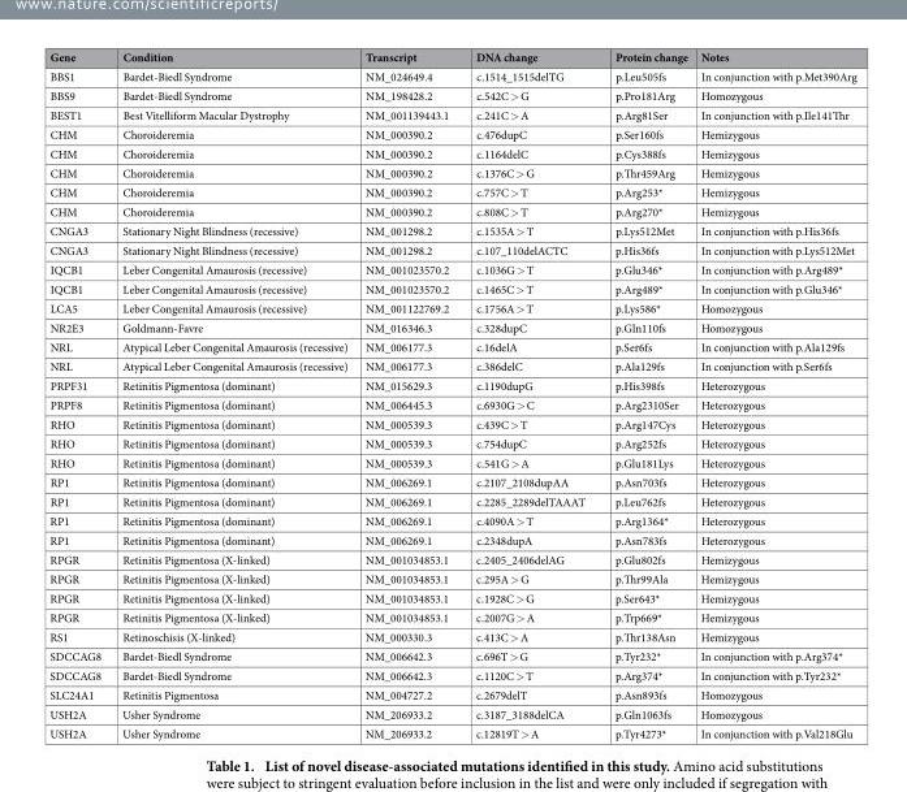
<table><thead><tr><td>Gene</td><td>Condition</td><td>Transcript</td><td>DNA change</td><td>Protein change</td><td>Notes</td></tr></thead><tbody><tr><td>BBS1</td><td>Bardet-Biedl Syndrome</td><td>NM_024649.4</td><td>c.1514_1515delTG</td><td>p.Leu505fs</td><td>In conjunction with p.Met390Arg</td></tr><tr><td>BBS9</td><td>Bardet-Biedl Syndrome</td><td>NM_198428.2</td><td>c.542C &gt; G</td><td>p.Pro181Arg</td><td>Homozygous</td></tr><tr><td>BEST1</td><td>Best Vitelliform Macular Dystrophy</td><td>NM_001139443.1</td><td>c.241C &gt; A</td><td>p.Arg81Ser</td><td>In conjunction with p.Ile141Thr</td></tr><tr><td>CHM</td><td>Choroideremia</td><td>NM_000390.2</td><td>c.476dupC</td><td>p.Ser160fs</td><td>Hemizygous</td></tr><tr><td>CHM</td><td>Choroideremia</td><td>NM_000390.2</td><td>c.1164delC</td><td>p.Cys388fs</td><td>Hemizygous</td></tr><tr><td>CHM</td><td>Choroideremia</td><td>NM_000390.2</td><td>c.1376C &gt; G</td><td>p.Thr459Arg</td><td>Hemizygous</td></tr><tr><td>CHM</td><td>Choroideremia</td><td>NM_000390.2</td><td>c.757C &gt; T</td><td>p.Arg253*</td><td>Hemizygous</td></tr><tr><td>CHM</td><td>Choroideremia</td><td>NM_000390.2</td><td>c.808C &gt; T</td><td>p.Arg270*</td><td>Hemizygous</td></tr><tr><td>CNGA3</td><td>Stationary Night Blindness (recessive)</td><td>NM_001298.2</td><td>c.1535A &gt; T</td><td>p.Lys512Met</td><td>In conjunction with p.His36fs</td></tr><tr><td>CNGA3</td><td>Stationary Night Blindness (recessive)</td><td>NM_001298.2</td><td>c.107_110delACTC</td><td>p.His36fs</td><td>In conjunction with p.Lys512Met</td></tr><tr><td>IQCB1</td><td>Leber Congenital Amaurosis (recessive)</td><td>NM_001023570.2</td><td>c.1036G &gt; T</td><td>p.Glu346*</td><td>In conjunction with p.Arg489*</td></tr><tr><td>IQCB1</td><td>Leber Congenital Amaurosis (recessive)</td><td>NM_001023570.2</td><td>c.1465C &gt; T</td><td>p.Arg489*</td><td>In conjunction with p.Glu346*</td></tr><tr><td>LCA5</td><td>Leber Congenital Amaurosis (recessive)</td><td>NM_001122769.2</td><td>c.1756A &gt; T</td><td>p.Lys586*</td><td>Homozygous</td></tr><tr><td>NR2E3</td><td>Goldmann-Favre</td><td>NM_016346.3</td><td>c.328dupC</td><td>p.Gln110fs</td><td>Homozygous</td></tr><tr><td>NRL</td><td>Atypical Leber Congenital Amaurosis (recessive)</td><td>NM_006177.3</td><td>c.16delA</td><td>p.Ser6fs</td><td>In conjunction with p.Ala129fs</td></tr><tr><td>NRL</td><td>Atypical Leber Congenital Amaurosis (recessive)</td><td>NM_006177.3</td><td>c.386delC</td><td>p.Ala129fs</td><td>In conjunction with p.Ser6fs</td></tr><tr><td>PRPF31</td><td>Retinitis Pigmentosa (dominant)</td><td>NM_015629.3</td><td>c.1190dupG</td><td>p.His398fs</td><td>Heterozygous</td></tr><tr><td>PRPF8</td><td>Retinitis Pigmentosa (dominant)</td><td>NM_006445.3</td><td>c.6930G &gt; C</td><td>p.Arg2310Ser</td><td>Heterozygous</td></tr><tr><td>RHO</td><td>Retinitis Pigmentosa (dominant)</td><td>NM_000539.3</td><td>c.439C &gt; T</td><td>p.Arg147Cys</td><td>Heterozygous</td></tr><tr><td>RHO</td><td>Retinitis Pigmentosa (dominant)</td><td>NM_000539.3</td><td>c.754dupC</td><td>p.Arg252fs</td><td>Heterozygous</td></tr><tr><td>RHO</td><td>Retinitis Pigmentosa (dominant)</td><td>NM_000539.3</td><td>c.541G &gt; A</td><td>p.Glu181Lys</td><td>Heterozygous</td></tr><tr><td>RP1</td><td>Retinitis Pigmentosa (dominant)</td><td>NM_006269.1</td><td>c.2107_2108dupAA</td><td>p.Asn703fs</td><td>Heterozygous</td></tr><tr><td>RP1</td><td>Retinitis Pigmentosa (dominant)</td><td>NM_006269.1</td><td>c.2285_2289delTAAAT</td><td>p.Leu762fs</td><td>Heterozygous</td></tr><tr><td>RP1</td><td>Retinitis Pigmentosa (dominant)</td><td>NM_006269.1</td><td>c.4090A &gt; T</td><td>p.Arg1364*</td><td>Heterozygous</td></tr><tr><td>RP1</td><td>Retinitis Pigmentosa (dominant)</td><td>NM_006269.1</td><td>c.2348dupA</td><td>p.Asn783fs</td><td>Heterozygous</td></tr><tr><td>RPGR</td><td>Retinitis Pigmentosa (X-linked)</td><td>NM_001034853.1</td><td>c.2405_2406delAG</td><td>p.Glu802fs</td><td>Hemizygous</td></tr><tr><td>RPGR</td><td>Retinitis Pigmentosa (X-linked)</td><td>NM_001034853.1</td><td>c.295A &gt; G</td><td>p.Thr99Ala</td><td>Hemizygous</td></tr><tr><td>RPGR</td><td>Retinitis Pigmentosa (X-linked)</td><td>NM_001034853.1</td><td>c.1928C &gt; G</td><td>p.Ser643*</td><td>Hemizygous</td></tr><tr><td>RPGR</td><td>Retinitis Pigmentosa (X-linked)</td><td>NM_001034853.1</td><td>c.2007G &gt; A</td><td>p.Trp669*</td><td>Hemizygous</td></tr><tr><td>RS1</td><td>Retinoschisis (X-linked)</td><td>NM_000330.3</td><td>c.413C &gt; A</td><td>p.Thr138Asn</td><td>Hemizygous</td></tr><tr><td>SDCCAG8</td><td>Bardet-Biedl Syndrome</td><td>NM_006642.3</td><td>c.696T &gt; G</td><td>p.Tyr232*</td><td>In conjunction with p.Arg374*</td></tr><tr><td>SDCCAG8</td><td>Bardet-Biedl Syndrome</td><td>NM_006642.3</td><td>c.1120C &gt; T</td><td>p.Arg374*</td><td>In conjunction with p.Tyr232*</td></tr><tr><td>SLC24A1</td><td>Retinitis Pigmentosa</td><td>NM_004727.2</td><td>c.2679delT</td><td>p.Asn893fs</td><td>Homozygous</td></tr><tr><td>USH2A</td><td>Usher Syndrome</td><td>NM_206933.2</td><td>c.3187_3188delCA</td><td>p.Gln1063fs</td><td>Homozygous</td></tr><tr><td>USH2A</td><td>Usher Syndrome</td><td>NM_206933.2</td><td>c.12819T &gt; A</td><td>p.Tyr4273*</td><td>In conjunction with p.Val218Glu</td></tr></tbody></table>